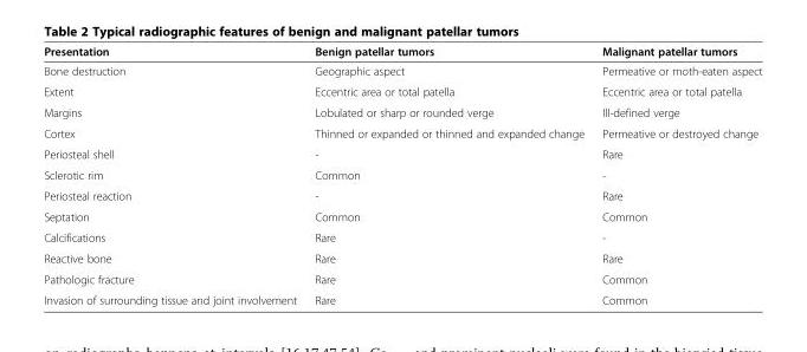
<table><thead><tr><td>Presentation</td><td>Benign patellar tumors</td><td>Malignant patellar tumors</td></tr></thead><tbody><tr><td>Bone destruction</td><td>Geographic aspect</td><td>Permeative or moth-eaten aspect</td></tr><tr><td>Extent</td><td>Eccentric area or total patella</td><td>Eccentric area or total patella</td></tr><tr><td>Margins</td><td>Lobulated or sharp or rounded verge</td><td>Ill-defined verge</td></tr><tr><td>Cortex</td><td>Thinned or expanded or thinned and expanded change</td><td>Permeative or destroyed change</td></tr><tr><td>Periosteal shell</td><td>-</td><td>Rare</td></tr><tr><td>Sclerotic rim</td><td>Common</td><td>-</td></tr><tr><td>Periosteal reaction</td><td>-</td><td>Rare</td></tr><tr><td>Septation</td><td>Common</td><td>Common</td></tr><tr><td>Calcifications</td><td>Rare</td><td>-</td></tr><tr><td>Reactive bone</td><td>Rare</td><td>Rare</td></tr><tr><td>Pathologic fracture</td><td>Rare</td><td>Common</td></tr><tr><td>Invasion of surrounding tissue and joint involvement</td><td>Rare</td><td>Common</td></tr></tbody></table>